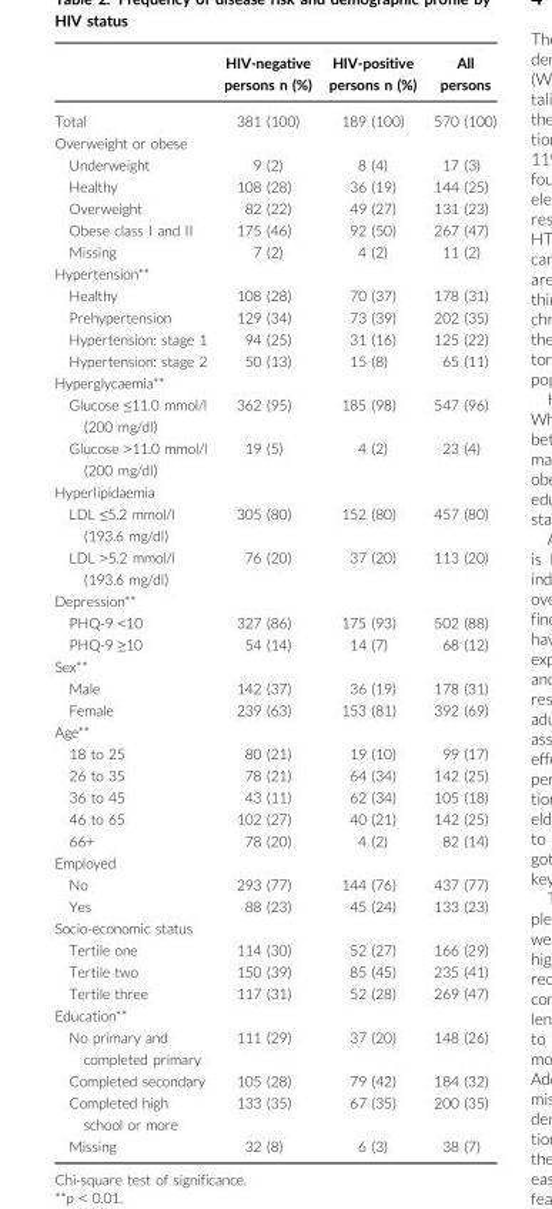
<table><thead><tr><td></td><td>HIV-negative persons n (%)</td><td>HIV-positive persons n (%)</td><td>All persons</td></tr></thead><tbody><tr><td>Total</td><td>381 (100)</td><td>189 (100)</td><td>570 (100)</td></tr><tr><td colspan="4">Overweight or obese</td></tr><tr><td>Underweight</td><td>9 (2)</td><td>8 (4)</td><td>17 (3)</td></tr><tr><td>Healthy</td><td>108 (28)</td><td>36 (19)</td><td>144 (25)</td></tr><tr><td>Overweight</td><td>82 (22)</td><td>49 (27)</td><td>131 (23)</td></tr><tr><td>Obese class I and II</td><td>175 (46)</td><td>92 (50)</td><td>267 (47)</td></tr><tr><td>Missing</td><td>7 (2)</td><td>4 (2)</td><td>11 (2)</td></tr><tr><td colspan="4">Hypertension**</td></tr><tr><td>Healthy</td><td>108 (28)</td><td>70 (37)</td><td>178 (31)</td></tr><tr><td>Prehypertension</td><td>129 (34)</td><td>73 (39)</td><td>202 (35)</td></tr><tr><td>Hypertension: stage 1</td><td>94 (25)</td><td>31 (16)</td><td>125 (22)</td></tr><tr><td>Hypertension: stage 2</td><td>50 (13)</td><td>15 (8)</td><td>65 (11)</td></tr><tr><td colspan="4">Hyperglycaemia**</td></tr><tr><td>Glucose ≤11.0 mmol/l (200 mg/dl)</td><td>362 (95)</td><td>185 (98)</td><td>547 (96)</td></tr><tr><td>Glucose &gt;11.0 mmol/l (200 mg/dl)</td><td>19 (5)</td><td>4 (2)</td><td>23 (4)</td></tr><tr><td colspan="4">Hyperlipidaemia</td></tr><tr><td>LDL ≤5.2 mmol/l (193.6 mg/dl)</td><td>305 (80)</td><td>152 (80)</td><td>457 (80)</td></tr><tr><td>LDL &gt;5.2 mmol/l (193.6 mg/dl)</td><td>76 (20)</td><td>37 (20)</td><td>113 (20)</td></tr><tr><td colspan="4">Depression**</td></tr><tr><td>PHQ-9 &lt;10</td><td>327 (86)</td><td>175 (93)</td><td>502 (88)</td></tr><tr><td>PHQ-9 ≥10</td><td>54 (14)</td><td>14 (7)</td><td>68 (12)</td></tr><tr><td colspan="4">Sex**</td></tr><tr><td>Male</td><td>142 (37)</td><td>36 (19)</td><td>178 (31)</td></tr><tr><td>Female</td><td>239 (63)</td><td>153 (81)</td><td>392 (69)</td></tr><tr><td colspan="4">Age**</td></tr><tr><td>18 to 25</td><td>80 (21)</td><td>19 (10)</td><td>99 (17)</td></tr><tr><td>26 to 35</td><td>78 (21)</td><td>64 (34)</td><td>142 (25)</td></tr><tr><td>36 to 45</td><td>43 (11)</td><td>62 (34)</td><td>105 (18)</td></tr><tr><td>46 to 65</td><td>102 (27)</td><td>40 (21)</td><td>142 (25)</td></tr><tr><td>66+</td><td>78 (20)</td><td>4 (2)</td><td>82 (14)</td></tr><tr><td colspan="4">Employed</td></tr><tr><td>No</td><td>293 (77)</td><td>144 (76)</td><td>437 (77)</td></tr><tr><td>Yes</td><td>88 (23)</td><td>45 (24)</td><td>133 (23)</td></tr><tr><td colspan="4">Socio-economic status</td></tr><tr><td>Tertile one</td><td>114 (30)</td><td>52 (27)</td><td>166 (29)</td></tr><tr><td>Tertile two</td><td>150 (39)</td><td>85 (45)</td><td>235 (41)</td></tr><tr><td>Tertile three</td><td>117 (31)</td><td>52 (28)</td><td>269 (47)</td></tr><tr><td colspan="4">Education**</td></tr><tr><td>No primary and completed primary</td><td>111 (29)</td><td>37 (20)</td><td>148 (26)</td></tr><tr><td>Completed secondary</td><td>105 (28)</td><td>79 (42)</td><td>184 (32)</td></tr><tr><td>Completed high school or more</td><td>133 (35)</td><td>67 (35)</td><td>200 (35)</td></tr><tr><td>Missing</td><td>32 (8)</td><td>6 (3)</td><td>38 (7)</td></tr></tbody></table>